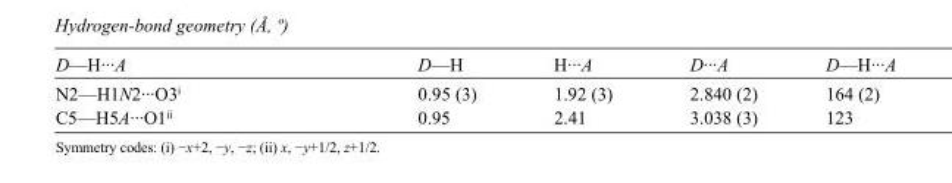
<table><tbody><tr><td>D—H···A</td><td>D—H</td><td>H···A</td><td>D···A</td><td>D—H···A</td></tr><tr><td>N2—H1N2···O3<sup>i</sup></td><td>0.95 (3)</td><td>1.92 (3)</td><td>2.840 (2)</td><td>164 (2)</td></tr><tr><td>C5—H5A···O1<sup>ii</sup></td><td>0.95</td><td>2.41</td><td>3.038 (3)</td><td>123</td></tr></tbody></table>